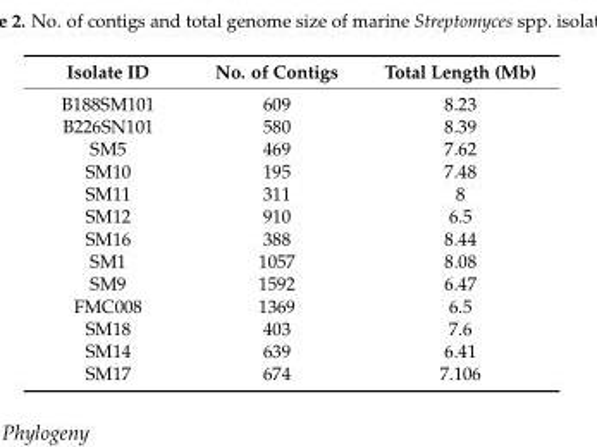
<table><thead><tr><td>Isolate ID</td><td>No. of Contigs</td><td>Total Length (Mb)</td></tr></thead><tbody><tr><td>B188SM101</td><td>609</td><td>8.23</td></tr><tr><td>B226SN101</td><td>580</td><td>8.39</td></tr><tr><td>SM5</td><td>469</td><td>7.62</td></tr><tr><td>SM10</td><td>195</td><td>7.48</td></tr><tr><td>SM11</td><td>311</td><td>8</td></tr><tr><td>SM12</td><td>910</td><td>6.5</td></tr><tr><td>SM16</td><td>388</td><td>8.44</td></tr><tr><td>SM1</td><td>1057</td><td>8.08</td></tr><tr><td>SM9</td><td>1592</td><td>6.47</td></tr><tr><td>FMC008</td><td>1369</td><td>6.5</td></tr><tr><td>SM18</td><td>403</td><td>7.6</td></tr><tr><td>SM14</td><td>639</td><td>6.41</td></tr><tr><td>SM17</td><td>674</td><td>7.106</td></tr></tbody></table>